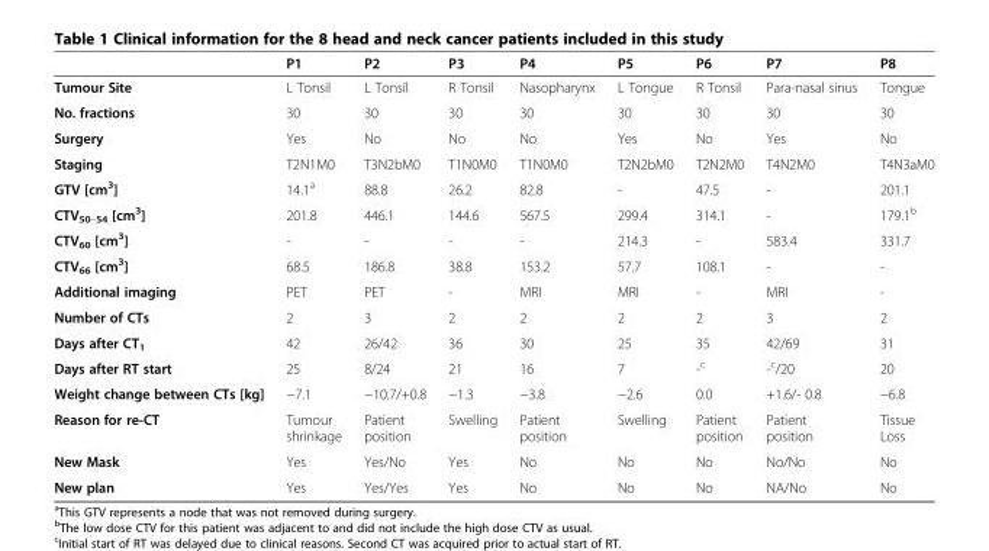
<table><thead><tr><td></td><td>P1</td><td>P2</td><td>P3</td><td>P4</td><td>P5</td><td>P6</td><td>P7</td><td>P8</td></tr></thead><tbody><tr><td>Tumour Site</td><td>L Tonsil</td><td>L Tonsil</td><td>R Tonsil</td><td>Nasopharynx</td><td>L Tongue</td><td>R Tonsil</td><td>Para-nasal sinus</td><td>Tongue</td></tr><tr><td>No. fractions</td><td>30</td><td>30</td><td>30</td><td>30</td><td>30</td><td>30</td><td>30</td><td>30</td></tr><tr><td>Surgery</td><td>Yes</td><td>No</td><td>No</td><td>No</td><td>Yes</td><td>No</td><td>Yes</td><td>No</td></tr><tr><td>Staging</td><td>T2N1M0</td><td>T3N2bM0</td><td>T1N0M0</td><td>T1N0M0</td><td>T2N2bM0</td><td>T2N2M0</td><td>T4N2M0</td><td>T4N3aM0</td></tr><tr><td>GTV [cm<sup>3</sup>]</td><td>14.1<sup>a</sup></td><td>88.8</td><td>26.2</td><td>82.8</td><td>-</td><td>47.5</td><td>-</td><td>201.1</td></tr><tr><td>CTV<sub>50–54</sub> [cm<sup>3</sup>]</td><td>201.8</td><td>446.1</td><td>144.6</td><td>567.5</td><td>299.4</td><td>314.1</td><td>-</td><td>179.1<sup>b</sup></td></tr><tr><td>CTV<sub>60</sub> [cm<sup>3</sup>]</td><td>-</td><td>-</td><td>-</td><td>-</td><td>214.3</td><td>-</td><td>583.4</td><td>331.7</td></tr><tr><td>CTV<sub>66</sub> [cm<sup>3</sup>]</td><td>68.5</td><td>186.8</td><td>38.8</td><td>153.2</td><td>57.7</td><td>108.1</td><td>-</td><td>-</td></tr><tr><td>Additional imaging</td><td>PET</td><td>PET</td><td>-</td><td>MRI</td><td>MRI</td><td>-</td><td>MRI</td><td>-</td></tr><tr><td>Number of CTs</td><td>2</td><td>3</td><td>2</td><td>2</td><td>2</td><td>2</td><td>3</td><td>2</td></tr><tr><td>Days after CT<sub>1</sub></td><td>42</td><td>26/42</td><td>36</td><td>30</td><td>25</td><td>35</td><td>42/69</td><td>31</td></tr><tr><td>Days after RT start</td><td>25</td><td>8/24</td><td>21</td><td>16</td><td>7</td><td>-<sup>c</sup></td><td>-<sup>c</sup>/20</td><td>20</td></tr><tr><td>Weight change between CTs [kg]</td><td>−7.1</td><td>−10.7/+0.8</td><td>−1.3</td><td>−3.8</td><td>−2.6</td><td>0.0</td><td>+1.6/- 0.8</td><td>−6.8</td></tr><tr><td>Reason for re-CT</td><td>Tumour shrinkage</td><td>Patient position</td><td>Swelling</td><td>Patient position</td><td>Swelling</td><td>Patient position</td><td>Patient position</td><td>Tissue Loss</td></tr><tr><td>New Mask</td><td>Yes</td><td>Yes/No</td><td>Yes</td><td>No</td><td>No</td><td>No</td><td>No/No</td><td>No</td></tr><tr><td>New plan</td><td>Yes</td><td>Yes/Yes</td><td>Yes</td><td>No</td><td>No</td><td>No</td><td>NA/No</td><td>No</td></tr></tbody></table>